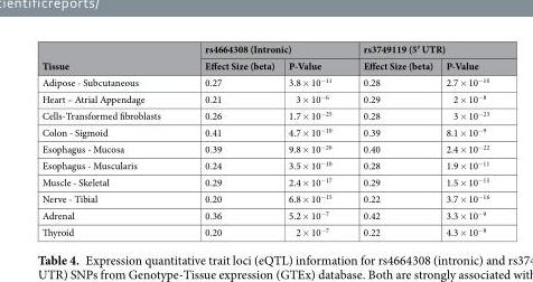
<table><thead><tr><td rowspan="2">Tissue</td><td colspan="2">rs4664308 (Intronic)</td><td colspan="2">rs3749119 (5′ UTR)</td></tr><tr><td>Effect Size (beta)</td><td>P-Value</td><td>Effect Size (beta)</td><td>P-Value</td></tr></thead><tbody><tr><td>Adipose - Subcutaneous</td><td>0.27</td><td>3.8 × 10<sup>−11</sup></td><td>0.28</td><td>2.7 × 10<sup>−10</sup></td></tr><tr><td>Heart – Atrial Appendage</td><td>0.21</td><td>3 × 10<sup>−6</sup></td><td>0.29</td><td>2 × 10<sup>−8</sup></td></tr><tr><td>Cells-Transformed fibroblasts</td><td>0.26</td><td>1.7 × 10<sup>−25</sup></td><td>0.28</td><td>3 × 10<sup>−23</sup></td></tr><tr><td>Colon - Sigmoid</td><td>0.41</td><td>4.7 × 10<sup>−10</sup></td><td>0.39</td><td>8.1 × 10<sup>−9</sup></td></tr><tr><td>Esophagus - Mucosa</td><td>0.39</td><td>9.8 × 10<sup>−26</sup></td><td>0.40</td><td>2.4 × 10<sup>−22</sup></td></tr><tr><td>Esophagus - Muscularis</td><td>0.24</td><td>3.5 × 10<sup>−10</sup></td><td>0.28</td><td>1.9 × 10<sup>−11</sup></td></tr><tr><td>Muscle - Skeletal</td><td>0.29</td><td>2.4 × 10<sup>−17</sup></td><td>0.29</td><td>1.5 × 10<sup>−15</sup></td></tr><tr><td>Nerve - Tibial</td><td>0.20</td><td>6.8 × 10<sup>−15</sup></td><td>0.22</td><td>3.7 × 10<sup>−16</sup></td></tr><tr><td>Adrenal</td><td>0.36</td><td>5.2 × 10<sup>−7</sup></td><td>0.42</td><td>3.3 × 10<sup>−9</sup></td></tr><tr><td>Thyroid</td><td>0.20</td><td>2 × 10<sup>−7</sup></td><td>0.22</td><td>4.3 × 10<sup>−8</sup></td></tr></tbody></table>